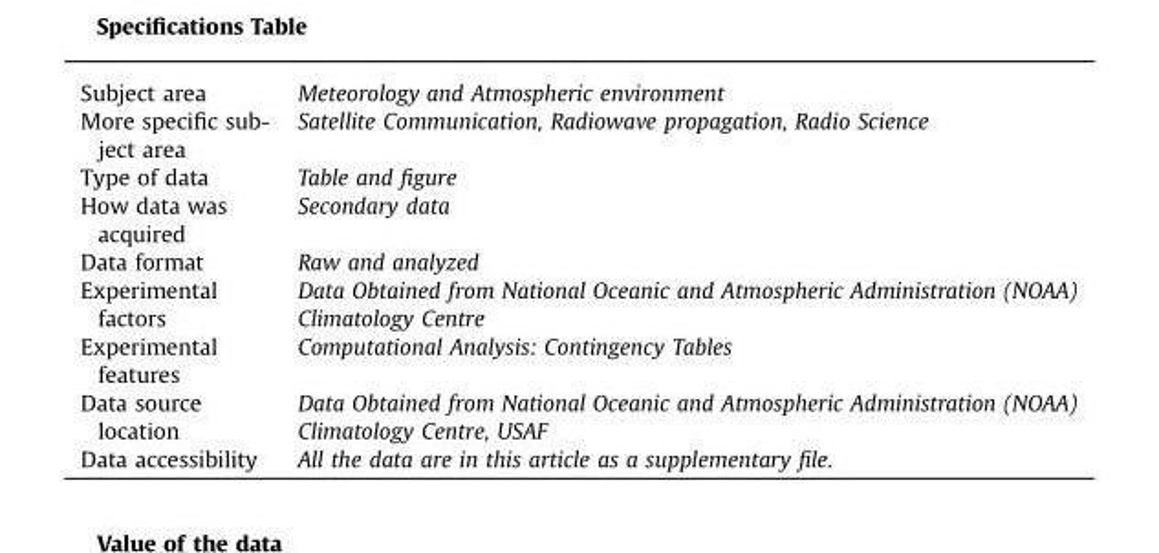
<table><tbody><tr><td>Subject area</td><td>Meteorology and Atmospheric environment</td></tr><tr><td>More specific sub- ject area</td><td>Satellite Communication, Radiowave propagation, Radio Science</td></tr><tr><td>Type of data</td><td>Table and figure</td></tr><tr><td>How data was acquired</td><td>Secondary data</td></tr><tr><td>Data format</td><td>Raw and analyzed</td></tr><tr><td>Experimental factors</td><td>Data Obtained from National Oceanic and Atmospheric Administration (NOAA) Climatology Centre</td></tr><tr><td>Experimental features</td><td>Computational Analysis: Contingency Tables</td></tr><tr><td>Data source location</td><td>Data Obtained from National Oceanic and Atmospheric Administration (NOAA) Climatology Centre, USAF</td></tr><tr><td>Data accessibility</td><td>All the data are in this article as a supplementary file.</td></tr></tbody></table>